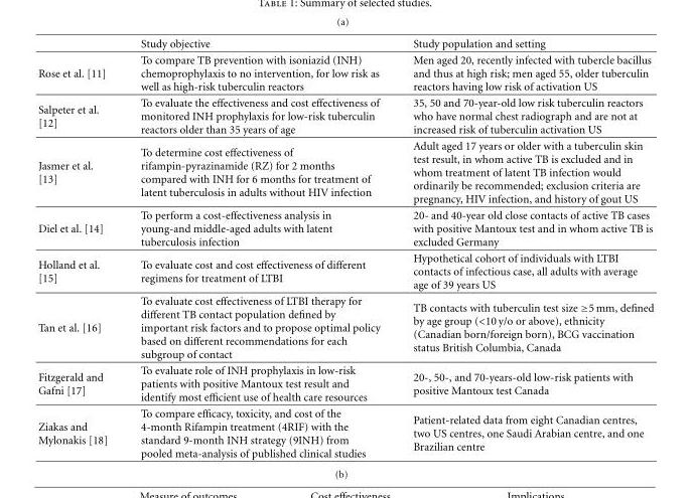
<table><thead><tr><td></td><td>Study objective</td><td>Study population and setting</td></tr></thead><tbody><tr><td>Rose et al. [11]</td><td>To compare TB prevention with isoniazid (INH) chemoprophylaxis to no intervention, for low risk as well as high-risk tuberculin reactors</td><td>Men aged 20, recently infected with tubercle bacillus and thus at high risk; men aged 55, older tuberculin reactors having low risk of activation US</td></tr><tr><td>Salpeter et al. [12]</td><td>To evaluate the effectiveness and cost effectiveness of monitored INH prophylaxis for low-risk tuberculin reactors older than 35 years of age</td><td>35, 50 and 70-year-old low risk tuberculin reactors who have normal chest radiograph and are not at increased risk of tuberculin activation US</td></tr><tr><td>Jasmer et al. [13]</td><td>To determine cost effectiveness of rifampin-pyrazinamide (RZ) for 2 months compared with INH for 6 months for treatment of latent tuberculosis in adults without HIV infection</td><td>Adult aged 17 years or older with a tuberculin skin test result, in whom active TB is excluded and in whom treatment of latent TB infection would ordinarily be recommended; exclusion criteria are pregnancy, HIV infection, and history of gout US</td></tr><tr><td>Diel et al. [14]</td><td>To perform a cost-effectiveness analysis in young-and middle-aged adults with latent tuberculosis infection</td><td>20- and 40-year old close contacts of active TB cases with positive Mantoux test and in whom active TB is excluded Germany</td></tr><tr><td>Holland et al. [15]</td><td>To evaluate cost and cost effectiveness of different regimens for treatment of LTBI</td><td>Hypothetical cohort of individuals with LTBI contacts of infectious case, all adults with average age of 39 years US</td></tr><tr><td>Tan et al. [16]</td><td>To evaluate cost effectiveness of LTBI therapy for different TB contact population defined by important risk factors and to propose optimal policy based on different recommendations for each subgroup of contact</td><td>TB contacts with tuberculin test size ≥5 mm, defined by age group (&lt;10 y/o or above), ethnicity (Canadian born/foreign born), BCG vaccination status British Columbia, Canada</td></tr><tr><td>Fitzgerald and Gafni [17]</td><td>To evaluate role of INH prophylaxis in low-risk patients with positive Mantoux test result and identify most efficient use of health care resources</td><td>20-, 50-, and 70-years-old low-risk patients with positive Mantoux test Canada</td></tr><tr><td>Ziakas and Mylonakis [18]</td><td>To compare efficacy, toxicity, and cost of the 4-month Rifampin treatment (4RIF) with the standard 9-month INH strategy (9INH) from pooled meta-analysis of published clinical studies</td><td>Patient-related data from eight Canadian centres, two US centres, one Saudi Arabian centre, and one Brazilian centre</td></tr></tbody></table>